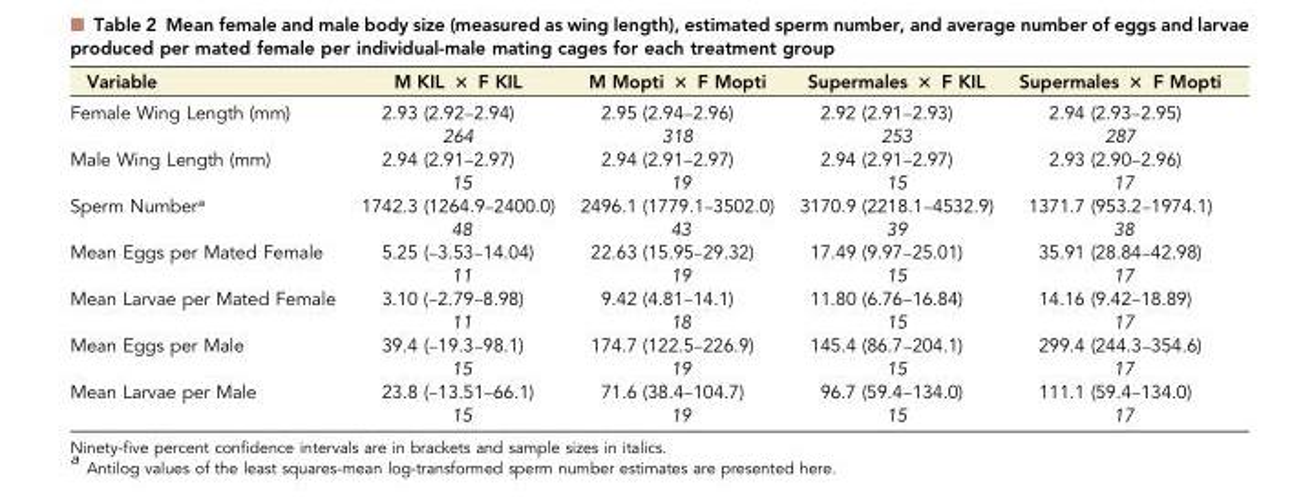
<table><thead><tr><td>Variable</td><td>M KIL × F KIL</td><td>M Mopti × F Mopti</td><td>Supermales × F KIL</td><td>Supermales × F Mopti</td></tr></thead><tbody><tr><td rowspan="2">Female Wing Length (mm)</td><td>2.93 (2.92–2.94)</td><td>2.95 (2.94–2.96)</td><td>2.92 (2.91–2.93)</td><td>2.94 (2.93–2.95)</td></tr><tr><td>264</td><td>318</td><td>253</td><td>287</td></tr><tr><td rowspan="2">Male Wing Length (mm)</td><td>2.94 (2.91–2.97)</td><td>2.94 (2.91–2.97)</td><td>2.94 (2.91–2.97)</td><td>2.93 (2.90–2.96)</td></tr><tr><td>15</td><td>19</td><td>15</td><td>17</td></tr><tr><td rowspan="2">Sperm Number<sup>a</sup></td><td>1742.3 (1264.9–2400.0)</td><td>2496.1 (1779.1–3502.0)</td><td>3170.9 (2218.1–4532.9)</td><td>1371.7 (953.2–1974.1)</td></tr><tr><td>48</td><td>43</td><td>39</td><td>38</td></tr><tr><td rowspan="2">Mean Eggs per Mated Female</td><td>5.25 (–3.53–14.04)</td><td>22.63 (15.95–29.32)</td><td>17.49 (9.97–25.01)</td><td>35.91 (28.84–42.98)</td></tr><tr><td>11</td><td>19</td><td>15</td><td>17</td></tr><tr><td rowspan="2">Mean Larvae per Mated Female</td><td>3.10 (–2.79–8.98)</td><td>9.42 (4.81–14.1)</td><td>11.80 (6.76–16.84)</td><td>14.16 (9.42–18.89)</td></tr><tr><td>11</td><td>18</td><td>15</td><td>17</td></tr><tr><td rowspan="2">Mean Eggs per Male</td><td>39.4 (–19.3–98.1)</td><td>174.7 (122.5–226.9)</td><td>145.4 (86.7–204.1)</td><td>299.4 (244.3–354.6)</td></tr><tr><td>15</td><td>19</td><td>15</td><td>17</td></tr><tr><td rowspan="2">Mean Larvae per Male</td><td>23.8 (–13.51–66.1)</td><td>71.6 (38.4–104.7)</td><td>96.7 (59.4–134.0)</td><td>111.1 (59.4–134.0)</td></tr><tr><td>15</td><td>19</td><td>15</td><td>17</td></tr></tbody></table>